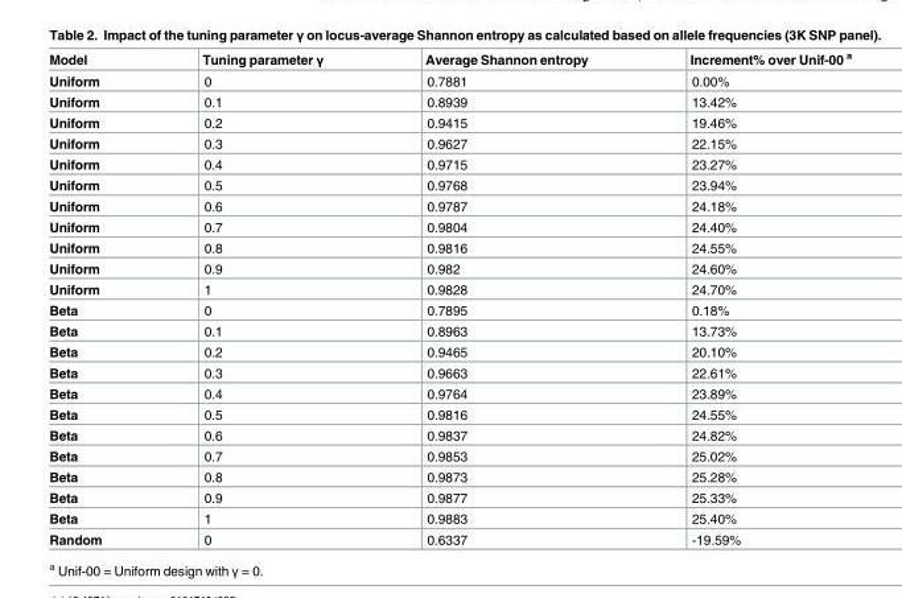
<table><thead><tr><td>Model</td><td>Tuning parameter γ</td><td>Average Shannon entropy</td><td>Increment% over Unif-00 <sup>a</sup></td></tr></thead><tbody><tr><td>Uniform</td><td>0</td><td>0.7881</td><td>0.00%</td></tr><tr><td>Uniform</td><td>0.1</td><td>0.8939</td><td>13.42%</td></tr><tr><td>Uniform</td><td>0.2</td><td>0.9415</td><td>19.46%</td></tr><tr><td>Uniform</td><td>0.3</td><td>0.9627</td><td>22.15%</td></tr><tr><td>Uniform</td><td>0.4</td><td>0.9715</td><td>23.27%</td></tr><tr><td>Uniform</td><td>0.5</td><td>0.9768</td><td>23.94%</td></tr><tr><td>Uniform</td><td>0.6</td><td>0.9787</td><td>24.18%</td></tr><tr><td>Uniform</td><td>0.7</td><td>0.9804</td><td>24.40%</td></tr><tr><td>Uniform</td><td>0.8</td><td>0.9816</td><td>24.55%</td></tr><tr><td>Uniform</td><td>0.9</td><td>0.982</td><td>24.60%</td></tr><tr><td>Uniform</td><td>1</td><td>0.9828</td><td>24.70%</td></tr><tr><td>Beta</td><td>0</td><td>0.7895</td><td>0.18%</td></tr><tr><td>Beta</td><td>0.1</td><td>0.8963</td><td>13.73%</td></tr><tr><td>Beta</td><td>0.2</td><td>0.9465</td><td>20.10%</td></tr><tr><td>Beta</td><td>0.3</td><td>0.9663</td><td>22.61%</td></tr><tr><td>Beta</td><td>0.4</td><td>0.9764</td><td>23.89%</td></tr><tr><td>Beta</td><td>0.5</td><td>0.9816</td><td>24.55%</td></tr><tr><td>Beta</td><td>0.6</td><td>0.9837</td><td>24.82%</td></tr><tr><td>Beta</td><td>0.7</td><td>0.9853</td><td>25.02%</td></tr><tr><td>Beta</td><td>0.8</td><td>0.9873</td><td>25.28%</td></tr><tr><td>Beta</td><td>0.9</td><td>0.9877</td><td>25.33%</td></tr><tr><td>Beta</td><td>1</td><td>0.9883</td><td>25.40%</td></tr><tr><td>Random</td><td>0</td><td>0.6337</td><td>-19.59%</td></tr></tbody></table>